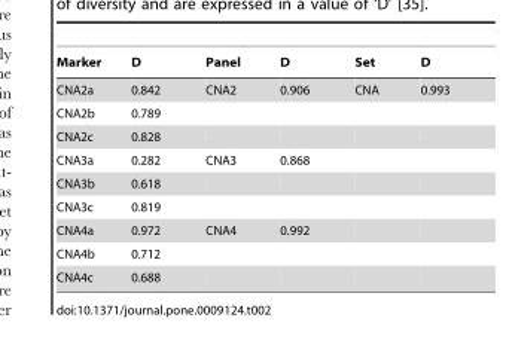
<table><thead><tr><td>Marker</td><td>D</td><td>Panel</td><td>D</td><td>Set</td><td>D</td></tr></thead><tbody><tr><td>CNA2a</td><td>0.842</td><td>CNA2</td><td>0.906</td><td>CNA</td><td>0.993</td></tr><tr><td>CNA2b</td><td>0.789</td><td></td><td></td><td></td><td></td></tr><tr><td>CNA2c</td><td>0.828</td><td></td><td></td><td></td><td></td></tr><tr><td>CNA3a</td><td>0.282</td><td>CNA3</td><td>0.868</td><td></td><td></td></tr><tr><td>CNA3b</td><td>0.618</td><td></td><td></td><td></td><td></td></tr><tr><td>CNA3c</td><td>0.819</td><td></td><td></td><td></td><td></td></tr><tr><td>CNA4a</td><td>0.972</td><td>CNA4</td><td>0.992</td><td></td><td></td></tr><tr><td>CNA4b</td><td>0.712</td><td></td><td></td><td></td><td></td></tr><tr><td>CNA4c</td><td>0.688</td><td></td><td></td><td></td><td></td></tr></tbody></table>